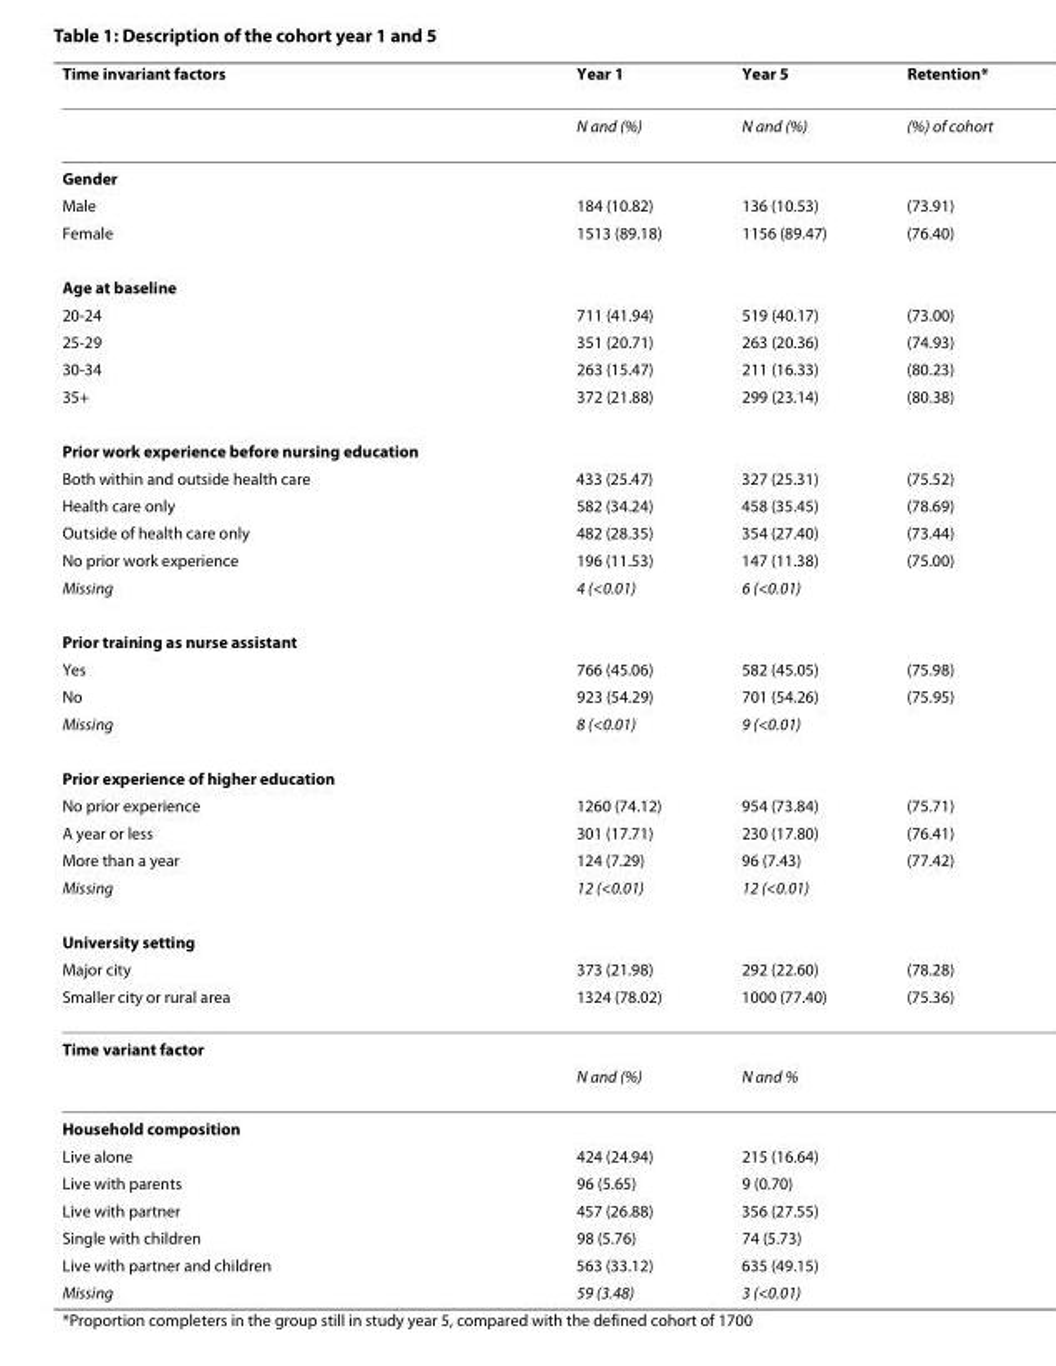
<table><thead><tr><td>Time invariant factors</td><td>Year 1</td><td>Year 5</td><td>Retention*</td></tr></thead><tbody><tr><td></td><td>N and (%)</td><td>N and (%)</td><td>(%) of cohort</td></tr><tr><td colspan="4">Gender</td></tr><tr><td>Male</td><td>184 (10.82)</td><td>136 (10.53)</td><td>(73.91)</td></tr><tr><td>Female</td><td>1513 (89.18)</td><td>1156 (89.47)</td><td>(76.40)</td></tr><tr><td colspan="4">Age at baseline</td></tr><tr><td>20-24</td><td>711 (41.94)</td><td>519 (40.17)</td><td>(73.00)</td></tr><tr><td>25-29</td><td>351 (20.71)</td><td>263 (20.36)</td><td>(74.93)</td></tr><tr><td>30-34</td><td>263 (15.47)</td><td>211 (16.33)</td><td>(80.23)</td></tr><tr><td>35+</td><td>372 (21.88)</td><td>299 (23.14)</td><td>(80.38)</td></tr><tr><td colspan="4">Prior work experience before nursing education</td></tr><tr><td>Both within and outside health care</td><td>433 (25.47)</td><td>327 (25.31)</td><td>(75.52)</td></tr><tr><td>Health care only</td><td>582 (34.24)</td><td>458 (35.45)</td><td>(78.69)</td></tr><tr><td>Outside of health care only</td><td>482 (28.35)</td><td>354 (27.40)</td><td>(73.44)</td></tr><tr><td>No prior work experience</td><td>196 (11.53)</td><td>147 (11.38)</td><td>(75.00)</td></tr><tr><td>Missing</td><td>4 (&lt;0.01)</td><td>6 (&lt;0.01)</td><td></td></tr><tr><td colspan="4">Prior training as nurse assistant</td></tr><tr><td>Yes</td><td>766 (45.06)</td><td>582 (45.05)</td><td>(75.98)</td></tr><tr><td>No</td><td>923 (54.29)</td><td>701 (54.26)</td><td>(75.95)</td></tr><tr><td>Missing</td><td>8 (&lt;0.01)</td><td>9 (&lt;0.01)</td><td></td></tr><tr><td colspan="4">Prior experience of higher education</td></tr><tr><td>No prior experience</td><td>1260 (74.12)</td><td>954 (73.84)</td><td>(75.71)</td></tr><tr><td>A year or less</td><td>301 (17.71)</td><td>230 (17.80)</td><td>(76.41)</td></tr><tr><td>More than a year</td><td>124 (7.29)</td><td>96 (7.43)</td><td>(77.42)</td></tr><tr><td>Missing</td><td>12 (&lt;0.01)</td><td>12 (&lt;0.01)</td><td></td></tr><tr><td colspan="4">University setting</td></tr><tr><td>Major city</td><td>373 (21.98)</td><td>292 (22.60)</td><td>(78.28)</td></tr><tr><td>Smaller city or rural area</td><td>1324 (78.02)</td><td>1000 (77.40)</td><td>(75.36)</td></tr><tr><td colspan="4">Time variant factor</td></tr><tr><td></td><td>N and (%)</td><td>N and %</td><td></td></tr><tr><td colspan="4">Household composition</td></tr><tr><td>Live alone</td><td>424 (24.94)</td><td>215 (16.64)</td><td></td></tr><tr><td>Live with parents</td><td>96 (5.65)</td><td>9 (0.70)</td><td></td></tr><tr><td>Live with partner</td><td>457 (26.88)</td><td>356 (27.55)</td><td></td></tr><tr><td>Single with children</td><td>98 (5.76)</td><td>74 (5.73)</td><td></td></tr><tr><td>Live with partner and children</td><td>563 (33.12)</td><td>635 (49.15)</td><td></td></tr><tr><td>Missing</td><td>59 (3.48)</td><td>3 (&lt;0.01)</td><td></td></tr></tbody></table>